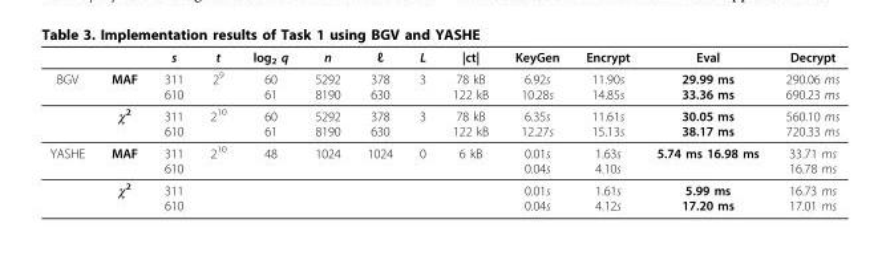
<table><thead><tr><td></td><td></td><td>s</td><td>t</td><td>log<sub>2</sub> q</td><td>n</td><td>ℓ</td><td>L</td><td>|ct|</td><td>KeyGen</td><td>Encrypt</td><td>Eval</td><td>Decrypt</td></tr></thead><tbody><tr><td rowspan="2">BGV</td><td>MAF</td><td>311 610</td><td>2<sup>9</sup></td><td>60 61</td><td>5292 8190</td><td>378 630</td><td>3</td><td>78 kB 122 kB</td><td>6.92s 10.28s</td><td>11.90s 14.85s</td><td>29.99 ms 33.36 ms</td><td>290.06 ms 690.23 ms</td></tr><tr><td>χ<sup>2</sup></td><td>311 610</td><td>2<sup>10</sup></td><td>60 61</td><td>5292 8190</td><td>378 630</td><td>3</td><td>78 kB 122 kB</td><td>6.35s 12.27s</td><td>11.61s 15.13s</td><td>30.05 ms 38.17 ms</td><td>560.10 ms 720.33 ms</td></tr><tr><td rowspan="2">YASHE</td><td>MAF</td><td>311 610</td><td>2<sup>10</sup></td><td>48</td><td>1024</td><td>1024</td><td>0</td><td>6 kB</td><td>0.01s 0.04s</td><td>1.63s 4.10s</td><td>5.74 ms 16.98 ms</td><td>33.71 ms 16.78 ms</td></tr><tr><td>χ<sup>2</sup></td><td>311 610</td><td></td><td></td><td></td><td></td><td></td><td></td><td>0.01s 0.04s</td><td>1.61s 4.12s</td><td>5.99 ms 17.20 ms</td><td>16.73 ms 17.01 ms</td></tr></tbody></table>